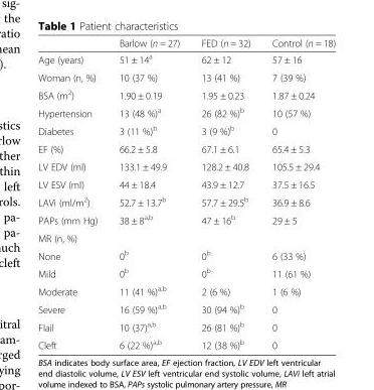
<table><thead><tr><td></td><td>Barlow (n = 27)</td><td>FED (n = 32)</td><td>Control (n = 18)</td></tr></thead><tbody><tr><td>Age (years)</td><td>51 ± 14<sup>a</sup></td><td>62 ± 12</td><td>57 ± 16</td></tr><tr><td>Woman (n, %)</td><td>10 (37 %)</td><td>13 (41 %)</td><td>7 (39 %)</td></tr><tr><td>BSA (m<sup>2</sup>)</td><td>1.90 ± 0.19</td><td>1.95 ± 0.23</td><td>1.87 ± 0.24</td></tr><tr><td>Hypertension</td><td>13 (48 %)<sup>a</sup></td><td>26 (82 %)<sup>b</sup></td><td>10 (57 %)</td></tr><tr><td>Diabetes</td><td>3 (11 %)<sup>b</sup></td><td>3 (9 %)<sup>b</sup></td><td>0</td></tr><tr><td>EF (%)</td><td>66.2 ± 5.8</td><td>67.1 ± 6.1</td><td>65.4 ± 5.3</td></tr><tr><td>LV EDV (ml)</td><td>133.1 ± 49.9</td><td>128.2 ± 40.8</td><td>105.5 ± 29.4</td></tr><tr><td>LV ESV (ml)</td><td>44 ± 18.4</td><td>43.9 ± 12.7</td><td>37.5 ± 16.5</td></tr><tr><td>LAVi (ml/m<sup>2</sup>)</td><td>52.7 ± 13.7<sup>b</sup></td><td>57.7 ± 29.5<sup>b</sup></td><td>36.9 ± 8.6</td></tr><tr><td>PAPs (mm Hg)</td><td>38 ± 8<sup>a,b</sup></td><td>47 ± 16<sup>b</sup></td><td>29 ± 5</td></tr><tr><td colspan="4">MR (n, %)</td></tr><tr><td>None</td><td>0<sup>b</sup></td><td>0<sup>b</sup></td><td>6 (33 %)</td></tr><tr><td>Mild</td><td>0<sup>b</sup></td><td>0<sup>b</sup></td><td>11 (61 %)</td></tr><tr><td>Moderate</td><td>11 (41 %)<sup>a,b</sup></td><td>2 (6 %)</td><td>1 (6 %)</td></tr><tr><td>Severe</td><td>16 (59 %)<sup>a,b</sup></td><td>30 (94 %)<sup>b</sup></td><td>0</td></tr><tr><td>Flail</td><td>10 (37)<sup>a,b</sup></td><td>26 (81 %)<sup>b</sup></td><td>0</td></tr><tr><td>Cleft</td><td>6 (22 %)<sup>a,b</sup></td><td>12 (38 %)<sup>b</sup></td><td>0</td></tr></tbody></table>